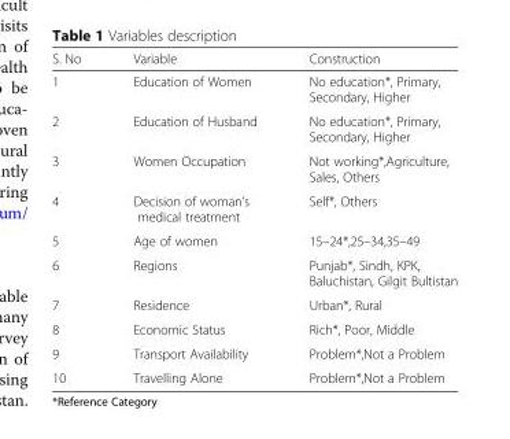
<table><thead><tr><td>S. No</td><td>Variable</td><td>Construction</td></tr></thead><tbody><tr><td>1</td><td>Education of Women</td><td>No education*, Primary, Secondary, Higher</td></tr><tr><td>2</td><td>Education of Husband</td><td>No education*, Primary, Secondary, Higher</td></tr><tr><td>3</td><td>Women Occupation</td><td>Not working*,Agriculture, Sales, Others</td></tr><tr><td>4</td><td>Decision of woman’s medical treatment</td><td>Self*, Others</td></tr><tr><td>5</td><td>Age of women</td><td>15–24*,25–34,35–49</td></tr><tr><td>6</td><td>Regions</td><td>Punjab*, Sindh, KPK, Baluchistan, Gilgit Bultistan</td></tr><tr><td>7</td><td>Residence</td><td>Urban*, Rural</td></tr><tr><td>8</td><td>Economic Status</td><td>Rich*, Poor, Middle</td></tr><tr><td>9</td><td>Transport Availability</td><td>Problem*,Not a Problem</td></tr><tr><td>10</td><td>Travelling Alone</td><td>Problem*,Not a Problem</td></tr></tbody></table>